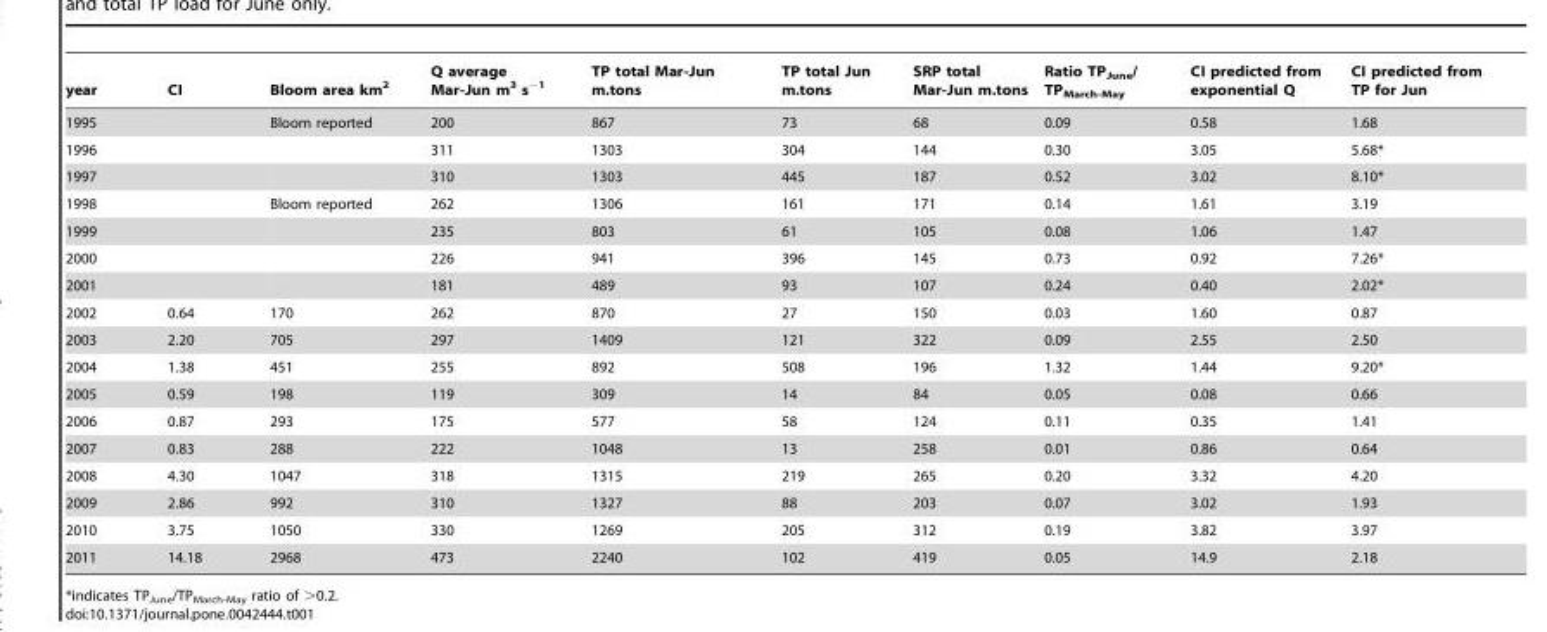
<table><thead><tr><td>year</td><td>CI</td><td>Bloom area km<sup>2</sup></td><td>Q average Mar-Jun m<sup>3</sup> s<sup>−1</sup></td><td>TP total Mar-Jun m.tons</td><td>TP total Jun m.tons</td><td>SRP total Mar-Jun m.tons</td><td>Ratio TP<sub>June</sub>/ TP<sub>March-May</sub></td><td>CI predicted from exponential Q</td><td>CI predicted from TP for Jun</td></tr></thead><tbody><tr><td>1995</td><td></td><td>Bloom reported</td><td>200</td><td>867</td><td>73</td><td>68</td><td>0.09</td><td>0.58</td><td>1.68</td></tr><tr><td>1996</td><td></td><td></td><td>311</td><td>1303</td><td>304</td><td>144</td><td>0.30</td><td>3.05</td><td>5.68*</td></tr><tr><td>1997</td><td></td><td></td><td>310</td><td>1303</td><td>445</td><td>187</td><td>0.52</td><td>3.02</td><td>8.10*</td></tr><tr><td>1998</td><td></td><td>Bloom reported</td><td>262</td><td>1306</td><td>161</td><td>171</td><td>0.14</td><td>1.61</td><td>3.19</td></tr><tr><td>1999</td><td></td><td></td><td>235</td><td>803</td><td>61</td><td>105</td><td>0.08</td><td>1.06</td><td>1.47</td></tr><tr><td>2000</td><td></td><td></td><td>226</td><td>941</td><td>396</td><td>145</td><td>0.73</td><td>0.92</td><td>7.26*</td></tr><tr><td>2001</td><td></td><td></td><td>181</td><td>489</td><td>93</td><td>107</td><td>0.24</td><td>0.40</td><td>2.02*</td></tr><tr><td>2002</td><td>0.64</td><td>170</td><td>262</td><td>870</td><td>27</td><td>150</td><td>0.03</td><td>1.60</td><td>0.87</td></tr><tr><td>2003</td><td>2.20</td><td>705</td><td>297</td><td>1409</td><td>121</td><td>322</td><td>0.09</td><td>2.55</td><td>2.50</td></tr><tr><td>2004</td><td>1.38</td><td>451</td><td>255</td><td>892</td><td>508</td><td>196</td><td>1.32</td><td>1.44</td><td>9.20*</td></tr><tr><td>2005</td><td>0.59</td><td>198</td><td>119</td><td>309</td><td>14</td><td>84</td><td>0.05</td><td>0.08</td><td>0.66</td></tr><tr><td>2006</td><td>0.87</td><td>293</td><td>175</td><td>577</td><td>58</td><td>124</td><td>0.11</td><td>0.35</td><td>1.41</td></tr><tr><td>2007</td><td>0.83</td><td>288</td><td>222</td><td>1048</td><td>13</td><td>258</td><td>0.01</td><td>0.86</td><td>0.64</td></tr><tr><td>2008</td><td>4.30</td><td>1047</td><td>318</td><td>1315</td><td>219</td><td>265</td><td>0.20</td><td>3.32</td><td>4.20</td></tr><tr><td>2009</td><td>2.86</td><td>992</td><td>310</td><td>1327</td><td>88</td><td>203</td><td>0.07</td><td>3.02</td><td>1.93</td></tr><tr><td>2010</td><td>3.75</td><td>1050</td><td>330</td><td>1269</td><td>205</td><td>312</td><td>0.19</td><td>3.82</td><td>3.97</td></tr><tr><td>2011</td><td>14.18</td><td>2968</td><td>473</td><td>2240</td><td>102</td><td>419</td><td>0.05</td><td>14.9</td><td>2.18</td></tr></tbody></table>